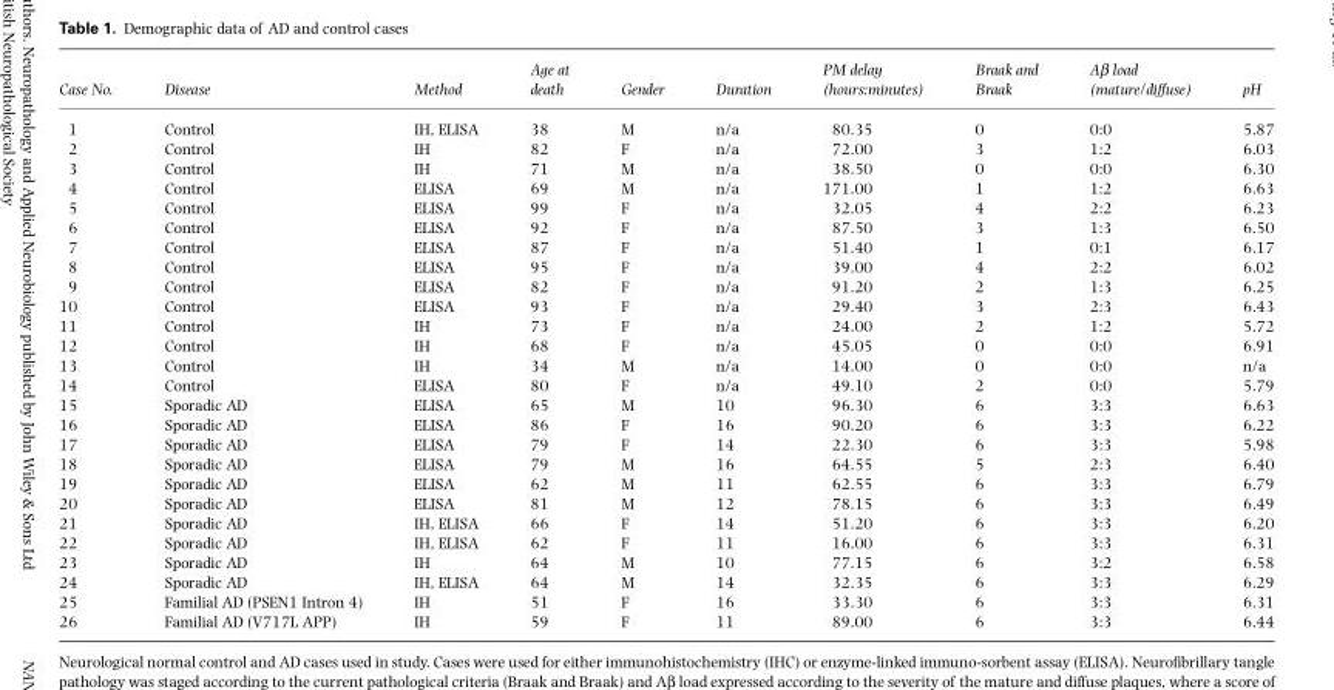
<table><thead><tr><td>Case No.</td><td>Disease</td><td>Method</td><td>Age at death</td><td>Gender</td><td>Duration</td><td>PM delay (hours:minutes)</td><td>Braak and Braak</td><td>Aβ load (mature/diffuse)</td><td>pH</td></tr></thead><tbody><tr><td>1</td><td>Control</td><td>IH, ELISA</td><td>38</td><td>M</td><td>n/a</td><td>80.35</td><td>0</td><td>0:0</td><td>5.87</td></tr><tr><td>2</td><td>Control</td><td>IH</td><td>82</td><td>F</td><td>n/a</td><td>72.00</td><td>3</td><td>1:2</td><td>6.03</td></tr><tr><td>3</td><td>Control</td><td>IH</td><td>71</td><td>M</td><td>n/a</td><td>38.50</td><td>0</td><td>0:0</td><td>6.30</td></tr><tr><td>4</td><td>Control</td><td>ELISA</td><td>69</td><td>M</td><td>n/a</td><td>171.00</td><td>1</td><td>1:2</td><td>6.63</td></tr><tr><td>5</td><td>Control</td><td>ELISA</td><td>99</td><td>F</td><td>n/a</td><td>32.05</td><td>4</td><td>2:2</td><td>6.23</td></tr><tr><td>6</td><td>Control</td><td>ELISA</td><td>92</td><td>F</td><td>n/a</td><td>87.50</td><td>3</td><td>1:3</td><td>6.50</td></tr><tr><td>7</td><td>Control</td><td>ELISA</td><td>87</td><td>F</td><td>n/a</td><td>51.40</td><td>1</td><td>0:1</td><td>6.17</td></tr><tr><td>8</td><td>Control</td><td>ELISA</td><td>95</td><td>F</td><td>n/a</td><td>39.00</td><td>4</td><td>2:2</td><td>6.02</td></tr><tr><td>9</td><td>Control</td><td>ELISA</td><td>82</td><td>F</td><td>n/a</td><td>91.20</td><td>2</td><td>1:3</td><td>6.25</td></tr><tr><td>10</td><td>Control</td><td>ELISA</td><td>93</td><td>F</td><td>n/a</td><td>29.40</td><td>3</td><td>2:3</td><td>6.43</td></tr><tr><td>11</td><td>Control</td><td>IH</td><td>73</td><td>F</td><td>n/a</td><td>24.00</td><td>2</td><td>1:2</td><td>5.72</td></tr><tr><td>12</td><td>Control</td><td>IH</td><td>68</td><td>F</td><td>n/a</td><td>45.05</td><td>0</td><td>0:0</td><td>6.91</td></tr><tr><td>13</td><td>Control</td><td>IH</td><td>34</td><td>M</td><td>n/a</td><td>14.00</td><td>0</td><td>0:0</td><td>n/a</td></tr><tr><td>14</td><td>Control</td><td>ELISA</td><td>80</td><td>F</td><td>n/a</td><td>49.10</td><td>2</td><td>0:0</td><td>5.79</td></tr><tr><td>15</td><td>Sporadic AD</td><td>ELISA</td><td>65</td><td>M</td><td>10</td><td>96.30</td><td>6</td><td>3:3</td><td>6.63</td></tr><tr><td>16</td><td>Sporadic AD</td><td>ELISA</td><td>86</td><td>F</td><td>16</td><td>90.20</td><td>6</td><td>3:3</td><td>6.22</td></tr><tr><td>17</td><td>Sporadic AD</td><td>ELISA</td><td>79</td><td>F</td><td>14</td><td>22.30</td><td>6</td><td>3:3</td><td>5.98</td></tr><tr><td>18</td><td>Sporadic AD</td><td>ELISA</td><td>79</td><td>M</td><td>16</td><td>64.55</td><td>5</td><td>2:3</td><td>6.40</td></tr><tr><td>19</td><td>Sporadic AD</td><td>ELISA</td><td>62</td><td>M</td><td>11</td><td>62.55</td><td>6</td><td>3:3</td><td>6.79</td></tr><tr><td>20</td><td>Sporadic AD</td><td>ELISA</td><td>81</td><td>M</td><td>12</td><td>78.15</td><td>6</td><td>3:3</td><td>6.49</td></tr><tr><td>21</td><td>Sporadic AD</td><td>IH, ELISA</td><td>66</td><td>F</td><td>14</td><td>51.20</td><td>6</td><td>3:3</td><td>6.20</td></tr><tr><td>22</td><td>Sporadic AD</td><td>IH, ELISA</td><td>62</td><td>F</td><td>11</td><td>16.00</td><td>6</td><td>3:3</td><td>6.31</td></tr><tr><td>23</td><td>Sporadic AD</td><td>IH</td><td>64</td><td>M</td><td>10</td><td>77.15</td><td>6</td><td>3:2</td><td>6.58</td></tr><tr><td>24</td><td>Sporadic AD</td><td>IH, ELISA</td><td>64</td><td>M</td><td>14</td><td>32.35</td><td>6</td><td>3:3</td><td>6.29</td></tr><tr><td>25</td><td>Familial AD (PSEN1 Intron 4)</td><td>IH</td><td>51</td><td>F</td><td>16</td><td>33.30</td><td>6</td><td>3:3</td><td>6.31</td></tr><tr><td>26</td><td>Familial AD (V717L APP)</td><td>IH</td><td>59</td><td>F</td><td>11</td><td>89.00</td><td>6</td><td>3:3</td><td>6.44</td></tr></tbody></table>